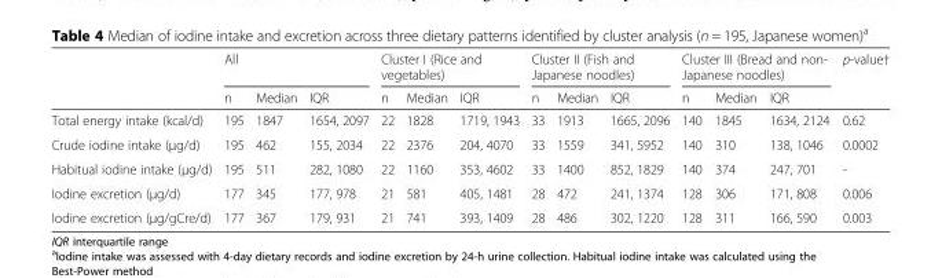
<table><thead><tr><td rowspan="2"></td><td colspan="3">All</td><td colspan="3">Cluster I (Rice and vegetables)</td><td colspan="3">Cluster II (Fish and Japanese noodles)</td><td colspan="3">Cluster III (Bread and non- Japanese noodles)</td><td rowspan="2">p-value†</td></tr><tr><td>n</td><td>Median</td><td>IQR</td><td>n</td><td>Median</td><td>IQR</td><td>n</td><td>Median</td><td>IQR</td><td>n</td><td>Median</td><td>IQR</td></tr></thead><tbody><tr><td>Total energy intake (kcal/d)</td><td>195</td><td>1847</td><td>1654, 2097</td><td>22</td><td>1828</td><td>1719, 1943</td><td>33</td><td>1913</td><td>1665, 2096</td><td>140</td><td>1845</td><td>1634, 2124</td><td>0.62</td></tr><tr><td>Crude iodine intake (μg/d)</td><td>195</td><td>462</td><td>155, 2034</td><td>22</td><td>2376</td><td>204, 4070</td><td>33</td><td>1559</td><td>341, 5952</td><td>140</td><td>310</td><td>138, 1046</td><td>0.0002</td></tr><tr><td>Habitual iodine intake (μg/d)</td><td>195</td><td>511</td><td>282, 1080</td><td>22</td><td>1160</td><td>353, 4602</td><td>33</td><td>1400</td><td>852, 1829</td><td>140</td><td>374</td><td>247, 701</td><td>-</td></tr><tr><td>Iodine excretion (μg/d)</td><td>177</td><td>345</td><td>177, 978</td><td>21</td><td>581</td><td>405, 1481</td><td>28</td><td>472</td><td>241, 1374</td><td>128</td><td>306</td><td>171, 808</td><td>0.006</td></tr><tr><td>Iodine excretion (μg/gCre/d)</td><td>177</td><td>367</td><td>179, 931</td><td>21</td><td>741</td><td>393, 1409</td><td>28</td><td>486</td><td>302, 1220</td><td>128</td><td>311</td><td>166, 590</td><td>0.003</td></tr></tbody></table>